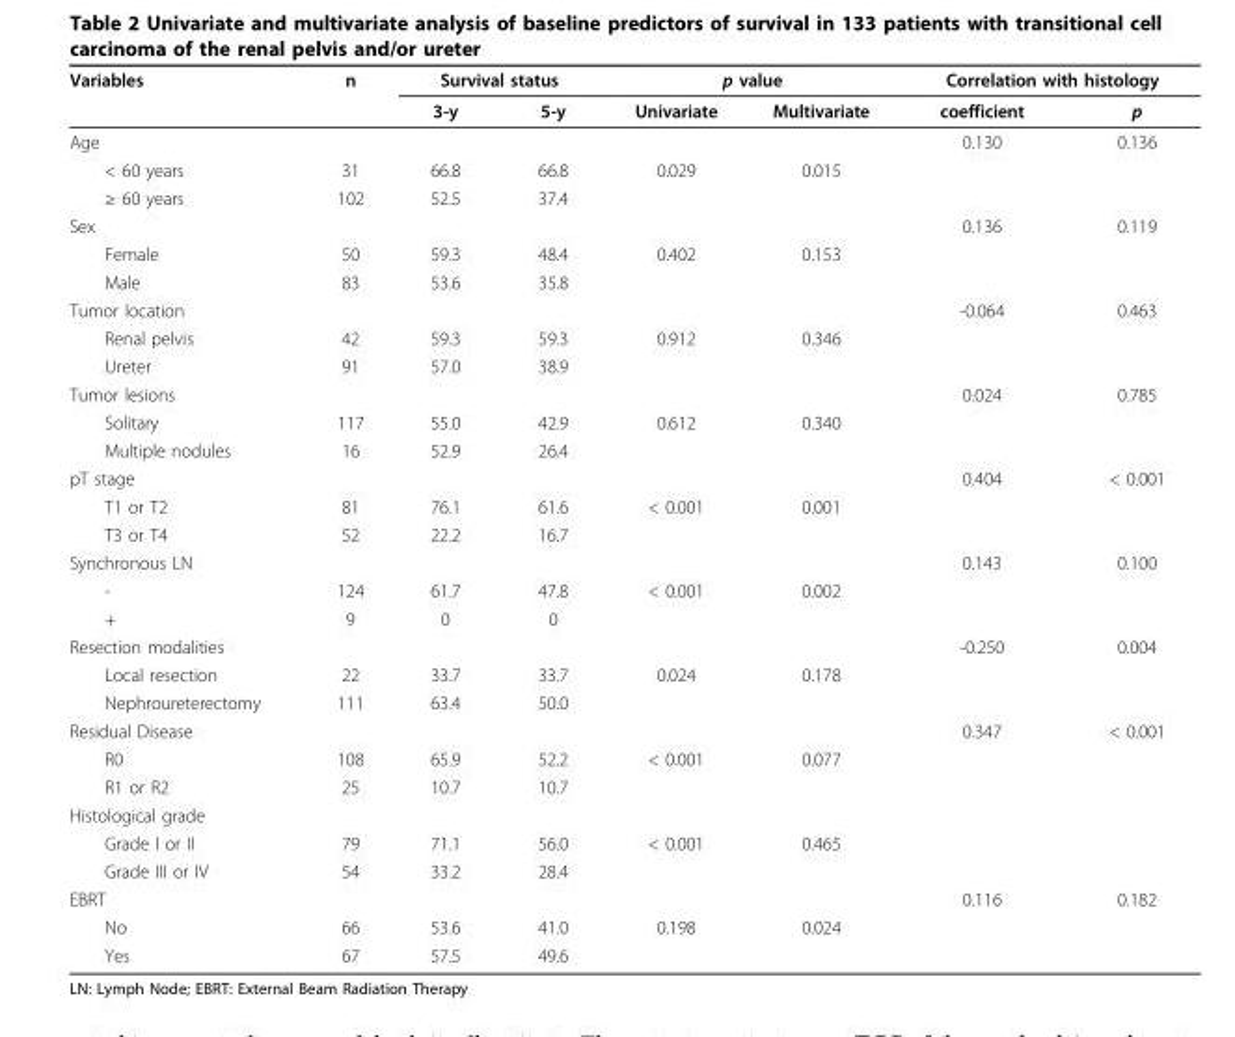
<table><thead><tr><td rowspan="2">Variables</td><td rowspan="2">n</td><td colspan="2">Survival status</td><td colspan="2">p value</td><td colspan="2">Correlation with histology</td></tr><tr><td>3-y</td><td>5-y</td><td>Univariate</td><td>Multivariate</td><td>coefficient</td><td>p</td></tr></thead><tbody><tr><td>Age</td><td></td><td></td><td></td><td></td><td></td><td>0.130</td><td>0.136</td></tr><tr><td>&lt; 60 years</td><td>31</td><td>66.8</td><td>66.8</td><td>0.029</td><td>0.015</td><td></td><td></td></tr><tr><td>≥ 60 years</td><td>102</td><td>52.5</td><td>37.4</td><td></td><td></td><td></td><td></td></tr><tr><td>Sex</td><td></td><td></td><td></td><td></td><td></td><td>0.136</td><td>0.119</td></tr><tr><td>Female</td><td>50</td><td>59.3</td><td>48.4</td><td>0.402</td><td>0.153</td><td></td><td></td></tr><tr><td>Male</td><td>83</td><td>53.6</td><td>35.8</td><td></td><td></td><td></td><td></td></tr><tr><td>Tumor location</td><td></td><td></td><td></td><td></td><td></td><td>-0.064</td><td>0.463</td></tr><tr><td>Renal pelvis</td><td>42</td><td>59.3</td><td>59.3</td><td>0.912</td><td>0.346</td><td></td><td></td></tr><tr><td>Ureter</td><td>91</td><td>57.0</td><td>38.9</td><td></td><td></td><td></td><td></td></tr><tr><td>Tumor lesions</td><td></td><td></td><td></td><td></td><td></td><td>0.024</td><td>0.785</td></tr><tr><td>Solitary</td><td>117</td><td>55.0</td><td>42.9</td><td>0.612</td><td>0.340</td><td></td><td></td></tr><tr><td>Multiple nodules</td><td>16</td><td>52.9</td><td>26.4</td><td></td><td></td><td></td><td></td></tr><tr><td>pT stage</td><td></td><td></td><td></td><td></td><td></td><td>0.404</td><td>&lt; 0.001</td></tr><tr><td>T1 or T2</td><td>81</td><td>76.1</td><td>61.6</td><td>&lt; 0.001</td><td>0.001</td><td></td><td></td></tr><tr><td>T3 or T4</td><td>52</td><td>22.2</td><td>16.7</td><td></td><td></td><td></td><td></td></tr><tr><td>Synchronous LN</td><td></td><td></td><td></td><td></td><td></td><td>0.143</td><td>0.100</td></tr><tr><td>-</td><td>124</td><td>61.7</td><td>47.8</td><td>&lt; 0.001</td><td>0.002</td><td></td><td></td></tr><tr><td>+</td><td>9</td><td>0</td><td>0</td><td></td><td></td><td></td><td></td></tr><tr><td>Resection modalities</td><td></td><td></td><td></td><td></td><td></td><td>-0.250</td><td>0.004</td></tr><tr><td>Local resection</td><td>22</td><td>33.7</td><td>33.7</td><td>0.024</td><td>0.178</td><td></td><td></td></tr><tr><td>Nephroureterectomy</td><td>111</td><td>63.4</td><td>50.0</td><td></td><td></td><td></td><td></td></tr><tr><td>Residual Disease</td><td></td><td></td><td></td><td></td><td></td><td>0.347</td><td>&lt; 0.001</td></tr><tr><td>R0</td><td>108</td><td>65.9</td><td>52.2</td><td>&lt; 0.001</td><td>0.077</td><td></td><td></td></tr><tr><td>R1 or R2</td><td>25</td><td>10.7</td><td>10.7</td><td></td><td></td><td></td><td></td></tr><tr><td colspan="8">Histological grade</td></tr><tr><td>Grade I or II</td><td>79</td><td>71.1</td><td>56.0</td><td>&lt; 0.001</td><td>0.465</td><td></td><td></td></tr><tr><td>Grade III or IV</td><td>54</td><td>33.2</td><td>28.4</td><td></td><td></td><td></td><td></td></tr><tr><td>EBRT</td><td></td><td></td><td></td><td></td><td></td><td>0.116</td><td>0.182</td></tr><tr><td>No</td><td>66</td><td>53.6</td><td>41.0</td><td>0.198</td><td>0.024</td><td></td><td></td></tr><tr><td>Yes</td><td>67</td><td>57.5</td><td>49.6</td><td></td><td></td><td></td><td></td></tr></tbody></table>